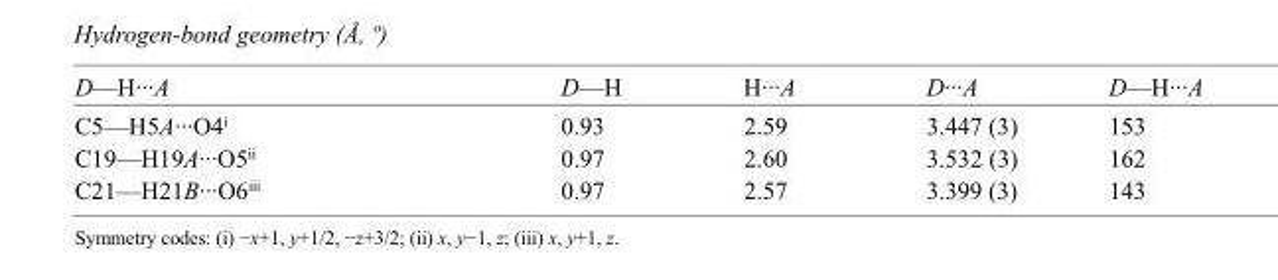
<table><tbody><tr><td>D—H···A</td><td>D—H</td><td>H···A</td><td>D···A</td><td>D—H···A</td></tr><tr><td>C5—H5A···O4<sup>i</sup></td><td>0.93</td><td>2.59</td><td>3.447 (3)</td><td>153</td></tr><tr><td>C19—H19A···O5<sup>ii</sup></td><td>0.97</td><td>2.60</td><td>3.532 (3)</td><td>162</td></tr><tr><td>C21—H21B···O6<sup>iii</sup></td><td>0.97</td><td>2.57</td><td>3.399 (3)</td><td>143</td></tr></tbody></table>